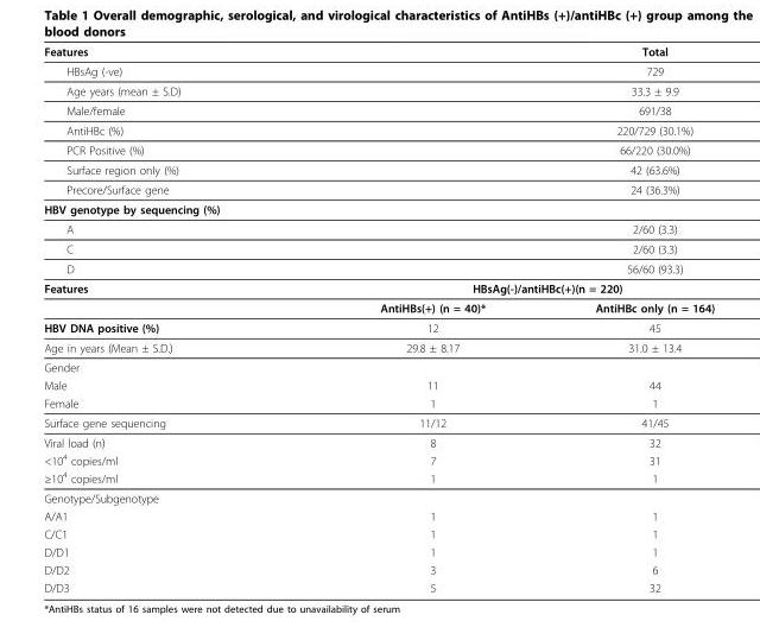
<table><thead><tr><td>Features</td><td></td><td>Total</td></tr></thead><tbody><tr><td>HBsAg (-ve)</td><td></td><td>729</td></tr><tr><td>Age years (mean ± S.D)</td><td></td><td>33.3 ± 9.9</td></tr><tr><td>Male/female</td><td></td><td>691/38</td></tr><tr><td>AntiHBc (%)</td><td></td><td>220/729 (30.1%)</td></tr><tr><td>PCR Positive (%)</td><td></td><td>66/220 (30.0%)</td></tr><tr><td>Surface region only (%)</td><td></td><td>42 (63.6%)</td></tr><tr><td>Precore/Surface gene</td><td></td><td>24 (36.3%)</td></tr><tr><td colspan="3">HBV genotype by sequencing (%)</td></tr><tr><td>A</td><td></td><td>2/60 (3.3)</td></tr><tr><td>C</td><td></td><td>2/60 (3.3)</td></tr><tr><td>D</td><td></td><td>56/60 (93.3)</td></tr><tr><td rowspan="2">Features</td><td colspan="2">HBsAg(-)/antiHBc(+)(n = 220)</td></tr><tr><td>AntiHBs(+) (n = 40)*</td><td>AntiHBc only (n = 164)</td></tr><tr><td>HBV DNA positive (%)</td><td>12</td><td>45</td></tr><tr><td>Age in years (Mean ± S.D.)</td><td>29.8 ± 8.17</td><td>31.0 ± 13.4</td></tr><tr><td colspan="3">Gender</td></tr><tr><td>Male</td><td>11</td><td>44</td></tr><tr><td>Female</td><td>1</td><td>1</td></tr><tr><td>Surface gene sequencing</td><td>11/12</td><td>41/45</td></tr><tr><td>Viral load (n)</td><td>8</td><td>32</td></tr><tr><td>&lt;10<sup>4</sup> copies/ml</td><td>7</td><td>31</td></tr><tr><td>≥10<sup>4</sup> copies/ml</td><td>1</td><td>1</td></tr><tr><td colspan="3">Genotype/Subgenotype</td></tr><tr><td>A/A1</td><td>1</td><td>1</td></tr><tr><td>C/C1</td><td>1</td><td>1</td></tr><tr><td>D/D1</td><td>1</td><td>1</td></tr><tr><td>D/D2</td><td>3</td><td>6</td></tr><tr><td>D/D3</td><td>5</td><td>32</td></tr></tbody></table>